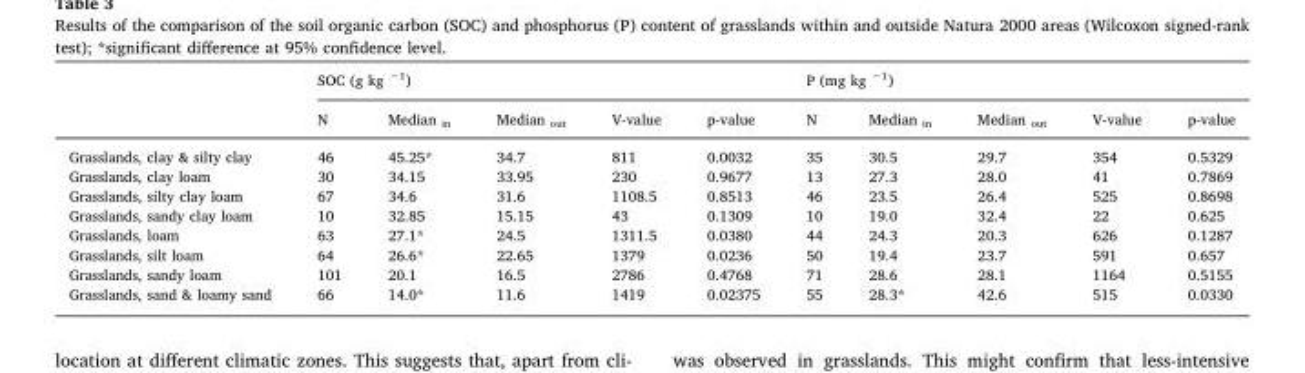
<table><thead><tr><td rowspan="2"></td><td colspan="5">SOC (g kg <sup>−1</sup>)</td><td colspan="5">P (mg kg <sup>−1</sup>)</td></tr><tr><td>N</td><td>Median <sub>in</sub></td><td>Median <sub>out</sub></td><td>V-value</td><td>p-value</td><td>N</td><td>Median <sub>in</sub></td><td>Median <sub>out</sub></td><td>V-value</td><td>p-value</td></tr></thead><tbody><tr><td>Grasslands, clay &amp; silty clay</td><td>46</td><td>45.25*</td><td>34.7</td><td>811</td><td>0.0032</td><td>35</td><td>30.5</td><td>29.7</td><td>354</td><td>0.5329</td></tr><tr><td>Grasslands, clay loam</td><td>30</td><td>34.15</td><td>33.95</td><td>230</td><td>0.9677</td><td>13</td><td>27.3</td><td>28.0</td><td>41</td><td>0.7869</td></tr><tr><td>Grasslands, silty clay loam</td><td>67</td><td>34.6</td><td>31.6</td><td>1108.5</td><td>0.8513</td><td>46</td><td>23.5</td><td>26.4</td><td>525</td><td>0.8698</td></tr><tr><td>Grasslands, sandy clay loam</td><td>10</td><td>32.85</td><td>15.15</td><td>43</td><td>0.1309</td><td>10</td><td>19.0</td><td>32.4</td><td>22</td><td>0.625</td></tr><tr><td>Grasslands, loam</td><td>63</td><td>27.1*</td><td>24.5</td><td>1311.5</td><td>0.0380</td><td>44</td><td>24.3</td><td>20.3</td><td>626</td><td>0.1287</td></tr><tr><td>Grasslands, silt loam</td><td>64</td><td>26.6*</td><td>22.65</td><td>1379</td><td>0.0236</td><td>50</td><td>19.4</td><td>23.7</td><td>591</td><td>0.657</td></tr><tr><td>Grasslands, sandy loam</td><td>101</td><td>20.1</td><td>16.5</td><td>2786</td><td>0.4768</td><td>71</td><td>28.6</td><td>28.1</td><td>1164</td><td>0.5155</td></tr><tr><td>Grasslands, sand &amp; loamy sand</td><td>66</td><td>14.0*</td><td>11.6</td><td>1419</td><td>0.02375</td><td>55</td><td>28.3*</td><td>42.6</td><td>515</td><td>0.0330</td></tr></tbody></table>